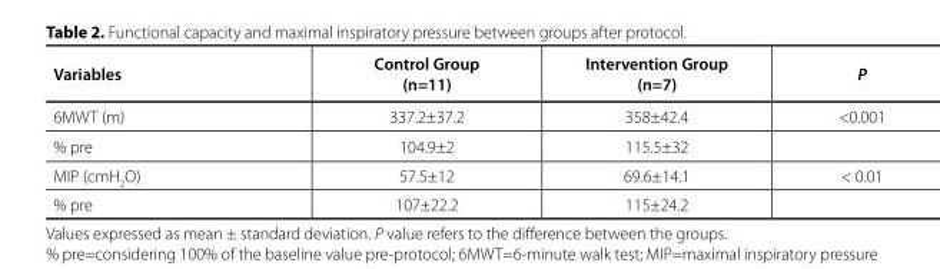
<table><thead><tr><td>Variables</td><td>Control Group (n=11)</td><td>Intervention Group (n=7)</td><td>P</td></tr></thead><tbody><tr><td>6MWT (m)</td><td>337.2±37.2</td><td>358±42.4</td><td>&lt;0.001</td></tr><tr><td>% pre</td><td>104.9±2</td><td>115.5±32</td><td></td></tr><tr><td>MIP (cmH<sub>2</sub>O)</td><td>57.5±12</td><td>69.6±14.1</td><td>&lt; 0.01</td></tr><tr><td>% pre</td><td>107±22.2</td><td>115±24.2</td><td></td></tr></tbody></table>